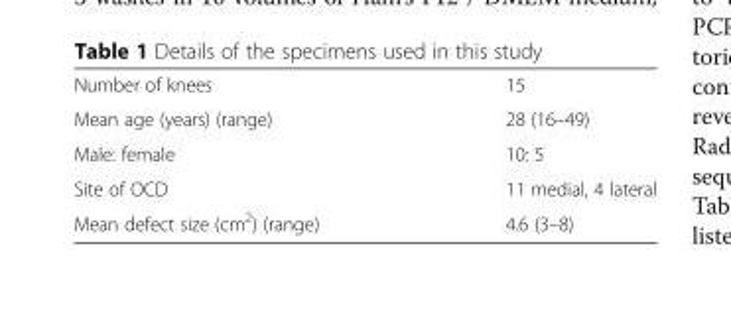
<table><tbody><tr><td>Number of knees</td><td>15</td></tr><tr><td>Mean age (years) (range)</td><td>28 (16–49)</td></tr><tr><td>Male: female</td><td>10: 5</td></tr><tr><td>Site of OCD</td><td>11 medial, 4 lateral</td></tr><tr><td>Mean defect size (cm<sup>2</sup>) (range)</td><td>4.6 (3–8)</td></tr></tbody></table>